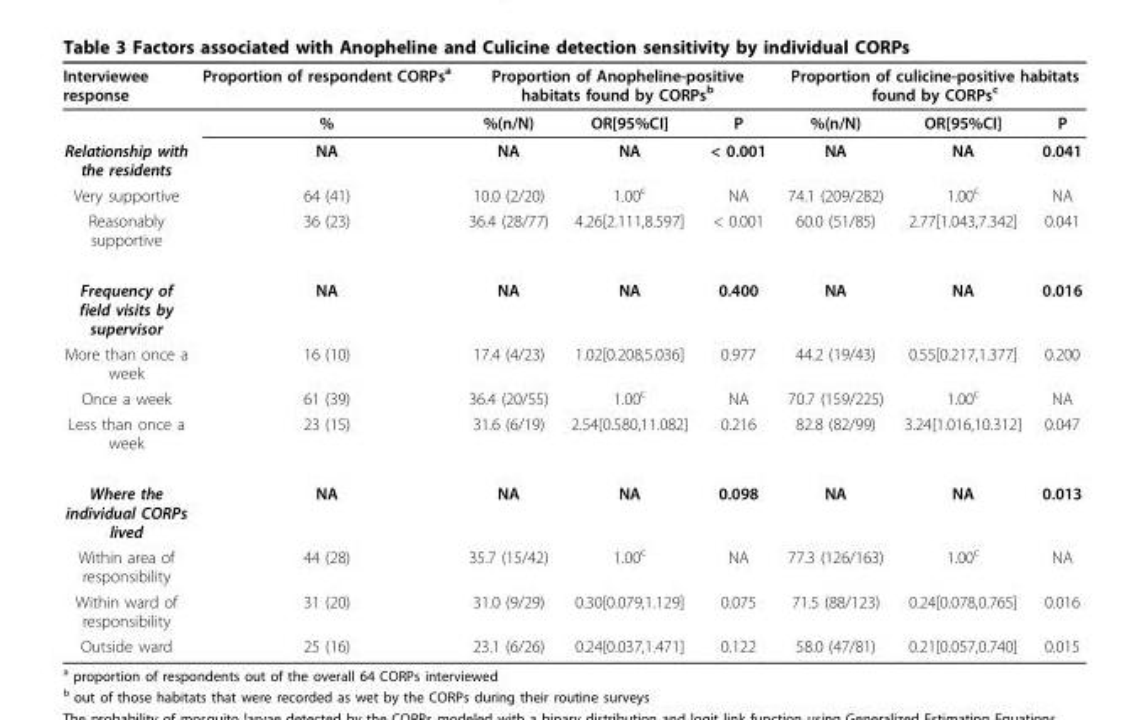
<table><tbody><tr><td rowspan="2">Interviewee response</td><td>Proportion of respondent CORPs<sup>a</sup></td><td colspan="3">Proportion of Anopheline-positive habitats found by CORPs<sup>b</sup></td><td colspan="3">Proportion of culicine-positive habitats found by CORPs<sup>c</sup></td></tr><tr><td>%</td><td>%(n/N)</td><td>OR[95%CI]</td><td>P</td><td>%(n/N)</td><td>OR[95%CI]</td><td>P</td></tr><tr><td>Relationship with the residents</td><td>NA</td><td>NA</td><td>NA</td><td>&lt; 0.001</td><td>NA</td><td>NA</td><td>0.041</td></tr><tr><td>Very supportive</td><td>64 (41)</td><td>10.0 (2/20)</td><td>1.00<sup>c</sup></td><td>NA</td><td>74.1 (209/282)</td><td>1.00<sup>c</sup></td><td>NA</td></tr><tr><td>Reasonably supportive</td><td>36 (23)</td><td>36.4 (28/77)</td><td>4.26[2.111,8.597]</td><td>&lt; 0.001</td><td>60.0 (51/85)</td><td>2.77[1.043,7.342]</td><td>0.041</td></tr><tr><td>Frequency of field visits by supervisor</td><td>NA</td><td>NA</td><td>NA</td><td>0.400</td><td>NA</td><td>NA</td><td>0.016</td></tr><tr><td>More than once a week</td><td>16 (10)</td><td>17.4 (4/23)</td><td>1.02[0.208,5.036]</td><td>0.977</td><td>44.2 (19/43)</td><td>0.55[0.217,1.377]</td><td>0.200</td></tr><tr><td>Once a week</td><td>61 (39)</td><td>36.4 (20/55)</td><td>1.00<sup>c</sup></td><td>NA</td><td>70.7 (159/225)</td><td>1.00<sup>c</sup></td><td>NA</td></tr><tr><td>Less than once a week</td><td>23 (15)</td><td>31.6 (6/19)</td><td>2.54[0.580,11.082]</td><td>0.216</td><td>82.8 (82/99)</td><td>3.24[1.016,10.312]</td><td>0.047</td></tr><tr><td>Where the individual CORPs lived</td><td>NA</td><td>NA</td><td>NA</td><td>0.098</td><td>NA</td><td>NA</td><td>0.013</td></tr><tr><td>Within area of responsibility</td><td>44 (28)</td><td>35.7 (15/42)</td><td>1.00<sup>c</sup></td><td>NA</td><td>77.3 (126/163)</td><td>1.00<sup>c</sup></td><td>NA</td></tr><tr><td>Within ward of responsibility</td><td>31 (20)</td><td>31.0 (9/29)</td><td>0.30[0.079,1.129]</td><td>0.075</td><td>71.5 (88/123)</td><td>0.24[0.078,0.765]</td><td>0.016</td></tr><tr><td>Outside ward</td><td>25 (16)</td><td>23.1 (6/26)</td><td>0.24[0.037,1.471]</td><td>0.122</td><td>58.0 (47/81)</td><td>0.21[0.057,0.740]</td><td>0.015</td></tr></tbody></table>